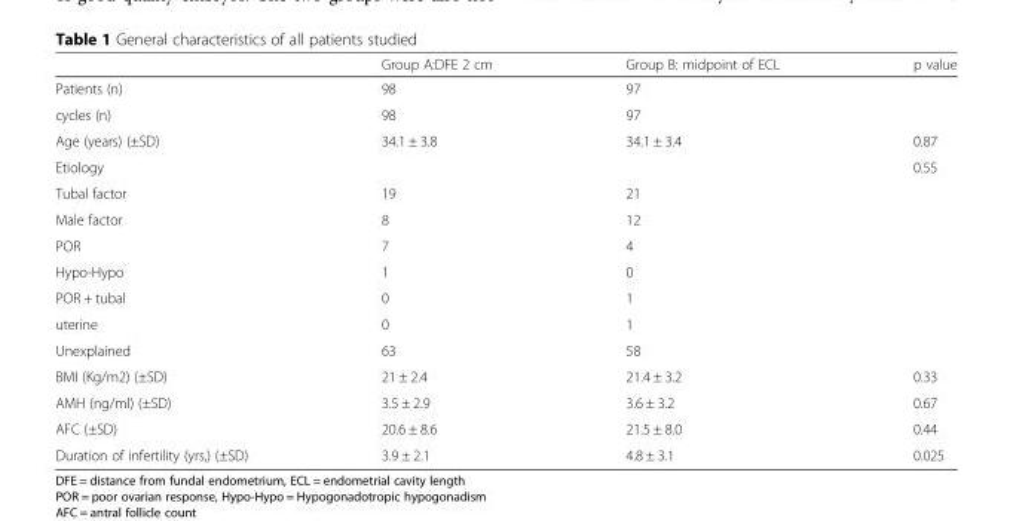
<table><thead><tr><td></td><td>Group A:DFE 2 cm</td><td>Group B: midpoint of ECL</td><td>p value</td></tr></thead><tbody><tr><td>Patients (n)</td><td>98</td><td>97</td><td></td></tr><tr><td>cycles (n)</td><td>98</td><td>97</td><td></td></tr><tr><td>Age (years) (±SD)</td><td>34.1 ± 3.8</td><td>34.1 ± 3.4</td><td>0.87</td></tr><tr><td>Etiology</td><td></td><td></td><td>0.55</td></tr><tr><td>Tubal factor</td><td>19</td><td>21</td><td></td></tr><tr><td>Male factor</td><td>8</td><td>12</td><td></td></tr><tr><td>POR</td><td>7</td><td>4</td><td></td></tr><tr><td>Hypo-Hypo</td><td>1</td><td>0</td><td></td></tr><tr><td>POR + tubal</td><td>0</td><td>1</td><td></td></tr><tr><td>uterine</td><td>0</td><td>1</td><td></td></tr><tr><td>Unexplained</td><td>63</td><td>58</td><td></td></tr><tr><td>BMI (Kg/m2) (±SD)</td><td>21 ± 2.4</td><td>21.4 ± 3.2</td><td>0.33</td></tr><tr><td>AMH (ng/ml) (±SD)</td><td>3.5 ± 2.9</td><td>3.6 ± 3.2</td><td>0.67</td></tr><tr><td>AFC (±SD)</td><td>20.6 ± 8.6</td><td>21.5 ± 8.0</td><td>0.44</td></tr><tr><td>Duration of infertility (yrs,) (±SD)</td><td>3.9 ± 2.1</td><td>4.8 ± 3.1</td><td>0.025</td></tr></tbody></table>